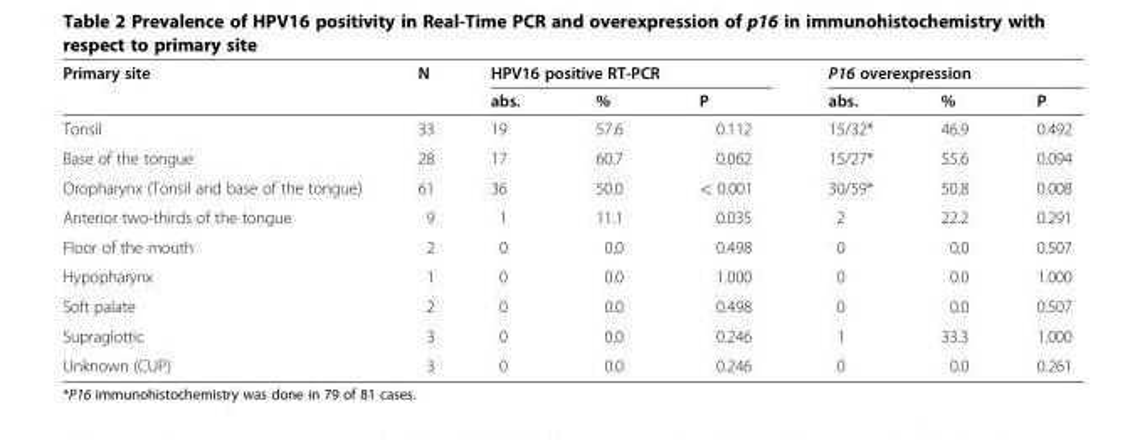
<table><thead><tr><td rowspan="2">Primary site</td><td rowspan="2">N</td><td colspan="3">HPV16 positive RT-PCR</td><td colspan="3">P16 overexpression</td></tr><tr><td>abs.</td><td>%</td><td>P</td><td>abs.</td><td>%</td><td>P</td></tr></thead><tbody><tr><td>Tonsil</td><td>33</td><td>19</td><td>57.6</td><td>0.112</td><td>15/32*</td><td>46.9</td><td>0.492</td></tr><tr><td>Base of the tongue</td><td>28</td><td>17</td><td>60.7</td><td>0.062</td><td>15/27*</td><td>55.6</td><td>0.094</td></tr><tr><td>Oropharynx (Tonsil and base of the tongue)</td><td>61</td><td>36</td><td>50.0</td><td>&lt; 0.001</td><td>30/59*</td><td>50.8</td><td>0.008</td></tr><tr><td>Anterior two-thirds of the tongue</td><td>9</td><td>1</td><td>11.1</td><td>0.035</td><td>2</td><td>22.2</td><td>0.291</td></tr><tr><td>Floor of the mouth</td><td>2</td><td>0</td><td>0.0</td><td>0.498</td><td>0</td><td>0.0</td><td>0.507</td></tr><tr><td>Hypopharynx</td><td>1</td><td>0</td><td>0.0</td><td>1.000</td><td>0</td><td>0.0</td><td>1.000</td></tr><tr><td>Soft palate</td><td>2</td><td>0</td><td>0.0</td><td>0.498</td><td>0</td><td>0.0</td><td>0.507</td></tr><tr><td>Supraglottic</td><td>3</td><td>0</td><td>0.0</td><td>0.246</td><td>1</td><td>33.3</td><td>1.000</td></tr><tr><td>Unknown (CUP)</td><td>3</td><td>0</td><td>0.0</td><td>0.246</td><td>0</td><td>0.0</td><td>0.261</td></tr></tbody></table>